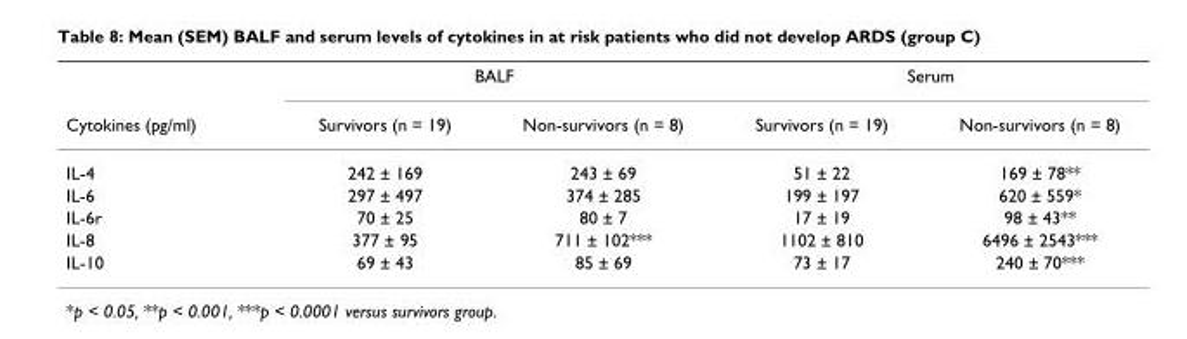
<table><thead><tr><td rowspan="2">Cytokines (pg/ml)</td><td colspan="2">BALF</td><td colspan="2">Serum</td></tr><tr><td>Survivors (n = 19)</td><td>Non-survivors (n = 8)</td><td>Survivors (n = 19)</td><td>Non-survivors (n = 8)</td></tr></thead><tbody><tr><td>IL-4</td><td>242 ± 169</td><td>243 ± 69</td><td>51 ± 22</td><td>169 ± 78**</td></tr><tr><td>IL-6</td><td>297 ± 497</td><td>374 ± 285</td><td>199 ± 197</td><td>620 ± 559*</td></tr><tr><td>IL-6r</td><td>70 ± 25</td><td>80 ± 7</td><td>17 ± 19</td><td>98 ± 43**</td></tr><tr><td>IL-8</td><td>377 ± 95</td><td>711 ± 102***</td><td>1102 ± 810</td><td>6496 ± 2543***</td></tr><tr><td>IL-10</td><td>69 ± 43</td><td>85 ± 69</td><td>73 ± 17</td><td>240 ± 70***</td></tr></tbody></table>